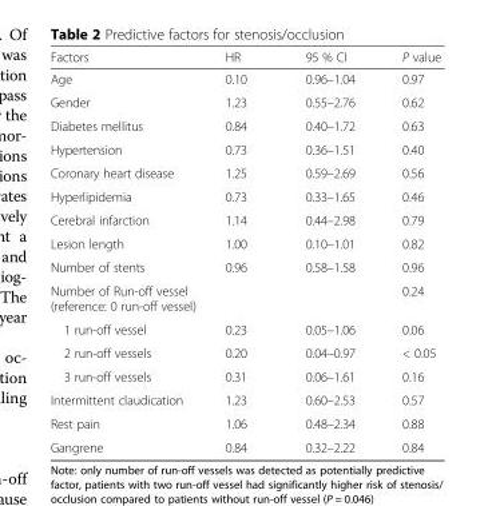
<table><thead><tr><td>Factors</td><td>HR</td><td>95 % CI</td><td>P value</td></tr></thead><tbody><tr><td>Age</td><td>0.10</td><td>0.96–1.04</td><td>0.97</td></tr><tr><td>Gender</td><td>1.23</td><td>0.55–2.76</td><td>0.62</td></tr><tr><td>Diabetes mellitus</td><td>0.84</td><td>0.40–1.72</td><td>0.63</td></tr><tr><td>Hypertension</td><td>0.73</td><td>0.36–1.51</td><td>0.40</td></tr><tr><td>Coronary heart disease</td><td>1.25</td><td>0.59–2.69</td><td>0.56</td></tr><tr><td>Hyperlipidemia</td><td>0.73</td><td>0.33–1.65</td><td>0.46</td></tr><tr><td>Cerebral infarction</td><td>1.14</td><td>0.44–2.98</td><td>0.79</td></tr><tr><td>Lesion length</td><td>1.00</td><td>0.10–1.01</td><td>0.82</td></tr><tr><td>Number of stents</td><td>0.96</td><td>0.58–1.58</td><td>0.96</td></tr><tr><td>Number of Run-off vessel (reference: 0 run-off vessel)</td><td></td><td></td><td>0.24</td></tr><tr><td>1 run-off vessel</td><td>0.23</td><td>0.05–1.06</td><td>0.06</td></tr><tr><td>2 run-off vessels</td><td>0.20</td><td>0.04–0.97</td><td>&lt; 0.05</td></tr><tr><td>3 run-off vessels</td><td>0.31</td><td>0.06–1.61</td><td>0.16</td></tr><tr><td>Intermittent claudication</td><td>1.23</td><td>0.60–2.53</td><td>0.57</td></tr><tr><td>Rest pain</td><td>1.06</td><td>0.48–2.34</td><td>0.88</td></tr><tr><td>Gangrene</td><td>0.84</td><td>0.32–2.22</td><td>0.84</td></tr></tbody></table>